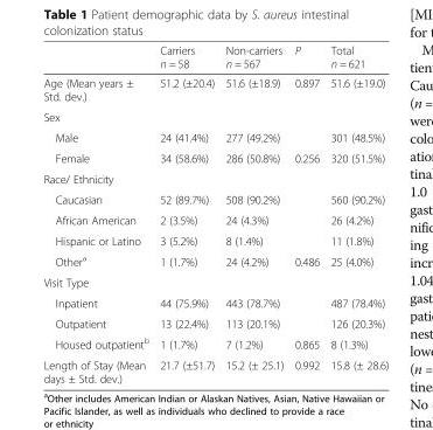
<table><thead><tr><td></td><td>Carriers n = 58</td><td>Non-carriers n = 567</td><td>P</td><td>Total n = 621</td></tr></thead><tbody><tr><td>Age (Mean years ± Std. dev.)</td><td>51.2 (±20.4)</td><td>51.6 (±18.9)</td><td>0.897</td><td>51.6 (±19.0)</td></tr><tr><td colspan="5">Sex</td></tr><tr><td>Male</td><td>24 (41.4%)</td><td>277 (49.2%)</td><td></td><td>301 (48.5%)</td></tr><tr><td>Female</td><td>34 (58.6%)</td><td>286 (50.8%)</td><td>0.256</td><td>320 (51.5%)</td></tr><tr><td colspan="5">Race/ Ethnicity</td></tr><tr><td>Caucasian</td><td>52 (89.7%)</td><td>508 (90.2%)</td><td></td><td>560 (90.2%)</td></tr><tr><td>African American</td><td>2 (3.5%)</td><td>24 (4.3%)</td><td></td><td>26 (4.2%)</td></tr><tr><td>Hispanic or Latino</td><td>3 (5.2%)</td><td>8 (1.4%)</td><td></td><td>11 (1.8%)</td></tr><tr><td>Other<sup>a</sup></td><td>1 (1.7%)</td><td>24 (4.2%)</td><td>0.486</td><td>25 (4.0%)</td></tr><tr><td colspan="5">Visit Type</td></tr><tr><td>Inpatient</td><td>44 (75.9%)</td><td>443 (78.7%)</td><td></td><td>487 (78.4%)</td></tr><tr><td>Outpatient</td><td>13 (22.4%)</td><td>113 (20.1%)</td><td></td><td>126 (20.3%)</td></tr><tr><td>Housed outpatient<sup>b</sup></td><td>1 (1.7%)</td><td>7 (1.2%)</td><td>0.865</td><td>8 (1.3%)</td></tr><tr><td>Length of Stay (Mean days ± Std. dev.)</td><td>21.7 (±51.7)</td><td>15.2 (± 25.1)</td><td>0.992</td><td>15.8 (± 28.6)</td></tr></tbody></table>